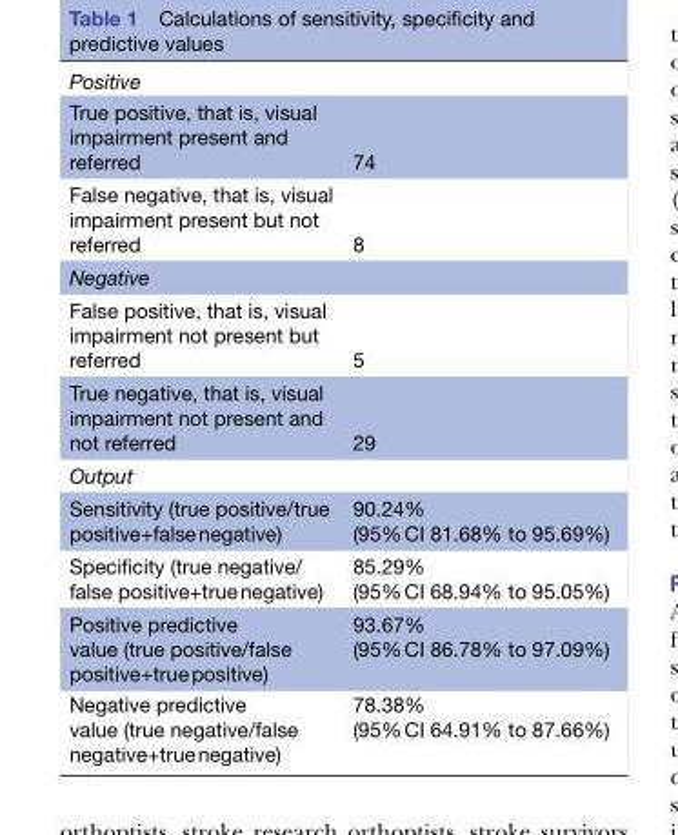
<table><tbody><tr><td colspan="2">Positive</td></tr><tr><td>True positive, that is, visual impairment present and referred</td><td>74</td></tr><tr><td>False negative, that is, visual impairment present but not referred</td><td>8</td></tr><tr><td colspan="2">Negative</td></tr><tr><td>False positive, that is, visual impairment not present but referred</td><td>5</td></tr><tr><td>True negative, that is, visual impairment not present and not referred</td><td>29</td></tr><tr><td colspan="2">Output</td></tr><tr><td>Sensitivity (true positive/true positive+false negative)</td><td>90.24% (95% CI 81.68% to 95.69%)</td></tr><tr><td>Specificity (true negative/ false positive+true negative)</td><td>85.29% (95% CI 68.94% to 95.05%)</td></tr><tr><td>Positive predictive value (true positive/false positive+true positive)</td><td>93.67% (95% CI 86.78% to 97.09%)</td></tr><tr><td>Negative predictive value (true negative/false negative+true negative)</td><td>78.38% (95% CI 64.91% to 87.66%)</td></tr></tbody></table>